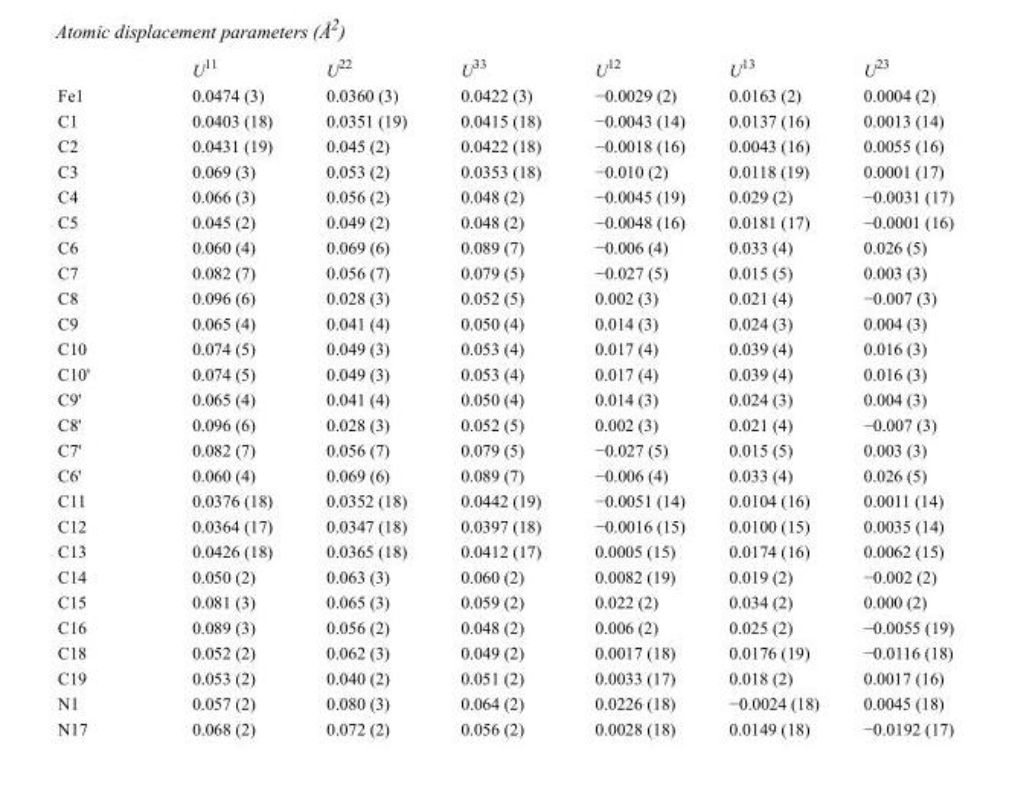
<table><thead><tr><td></td><td>U<sup>11</sup></td><td>U<sup>22</sup></td><td>U<sup>33</sup></td><td>U<sup>12</sup></td><td>U<sup>13</sup></td><td>U<sup>23</sup></td></tr></thead><tbody><tr><td>Fe1</td><td>0.0474 (3)</td><td>0.0360 (3)</td><td>0.0422 (3)</td><td>−0.0029 (2)</td><td>0.0163 (2)</td><td>0.0004 (2)</td></tr><tr><td>C1</td><td>0.0403 (18)</td><td>0.0351 (19)</td><td>0.0415 (18)</td><td>−0.0043 (14)</td><td>0.0137 (16)</td><td>0.0013 (14)</td></tr><tr><td>C2</td><td>0.0431 (19)</td><td>0.045 (2)</td><td>0.0422 (18)</td><td>−0.0018 (16)</td><td>0.0043 (16)</td><td>0.0055 (16)</td></tr><tr><td>C3</td><td>0.069 (3)</td><td>0.053 (2)</td><td>0.0353 (18)</td><td>−0.010 (2)</td><td>0.0118 (19)</td><td>0.0001 (17)</td></tr><tr><td>C4</td><td>0.066 (3)</td><td>0.056 (2)</td><td>0.048 (2)</td><td>−0.0045 (19)</td><td>0.029 (2)</td><td>−0.0031 (17)</td></tr><tr><td>C5</td><td>0.045 (2)</td><td>0.049 (2)</td><td>0.048 (2)</td><td>−0.0048 (16)</td><td>0.0181 (17)</td><td>−0.0001 (16)</td></tr><tr><td>C6</td><td>0.060 (4)</td><td>0.069 (6)</td><td>0.089 (7)</td><td>−0.006 (4)</td><td>0.033 (4)</td><td>0.026 (5)</td></tr><tr><td>C7</td><td>0.082 (7)</td><td>0.056 (7)</td><td>0.079 (5)</td><td>−0.027 (5)</td><td>0.015 (5)</td><td>0.003 (3)</td></tr><tr><td>C8</td><td>0.096 (6)</td><td>0.028 (3)</td><td>0.052 (5)</td><td>0.002 (3)</td><td>0.021 (4)</td><td>−0.007 (3)</td></tr><tr><td>C9</td><td>0.065 (4)</td><td>0.041 (4)</td><td>0.050 (4)</td><td>0.014 (3)</td><td>0.024 (3)</td><td>0.004 (3)</td></tr><tr><td>C10</td><td>0.074 (5)</td><td>0.049 (3)</td><td>0.053 (4)</td><td>0.017 (4)</td><td>0.039 (4)</td><td>0.016 (3)</td></tr><tr><td>C10&#x27;</td><td>0.074 (5)</td><td>0.049 (3)</td><td>0.053 (4)</td><td>0.017 (4)</td><td>0.039 (4)</td><td>0.016 (3)</td></tr><tr><td>C9&#x27;</td><td>0.065 (4)</td><td>0.041 (4)</td><td>0.050 (4)</td><td>0.014 (3)</td><td>0.024 (3)</td><td>0.004 (3)</td></tr><tr><td>C8&#x27;</td><td>0.096 (6)</td><td>0.028 (3)</td><td>0.052 (5)</td><td>0.002 (3)</td><td>0.021 (4)</td><td>−0.007 (3)</td></tr><tr><td>C7&#x27;</td><td>0.082 (7)</td><td>0.056 (7)</td><td>0.079 (5)</td><td>−0.027 (5)</td><td>0.015 (5)</td><td>0.003 (3)</td></tr><tr><td>C6&#x27;</td><td>0.060 (4)</td><td>0.069 (6)</td><td>0.089 (7)</td><td>−0.006 (4)</td><td>0.033 (4)</td><td>0.026 (5)</td></tr><tr><td>C11</td><td>0.0376 (18)</td><td>0.0352 (18)</td><td>0.0442 (19)</td><td>−0.0051 (14)</td><td>0.0104 (16)</td><td>0.0011 (14)</td></tr><tr><td>C12</td><td>0.0364 (17)</td><td>0.0347 (18)</td><td>0.0397 (18)</td><td>−0.0016 (15)</td><td>0.0100 (15)</td><td>0.0035 (14)</td></tr><tr><td>C13</td><td>0.0426 (18)</td><td>0.0365 (18)</td><td>0.0412 (17)</td><td>0.0005 (15)</td><td>0.0174 (16)</td><td>0.0062 (15)</td></tr><tr><td>C14</td><td>0.050 (2)</td><td>0.063 (3)</td><td>0.060 (2)</td><td>0.0082 (19)</td><td>0.019 (2)</td><td>−0.002 (2)</td></tr><tr><td>C15</td><td>0.081 (3)</td><td>0.065 (3)</td><td>0.059 (2)</td><td>0.022 (2)</td><td>0.034 (2)</td><td>0.000 (2)</td></tr><tr><td>C16</td><td>0.089 (3)</td><td>0.056 (2)</td><td>0.048 (2)</td><td>0.006 (2)</td><td>0.025 (2)</td><td>−0.0055 (19)</td></tr><tr><td>C18</td><td>0.052 (2)</td><td>0.062 (3)</td><td>0.049 (2)</td><td>0.0017 (18)</td><td>0.0176 (19)</td><td>−0.0116 (18)</td></tr><tr><td>C19</td><td>0.053 (2)</td><td>0.040 (2)</td><td>0.051 (2)</td><td>0.0033 (17)</td><td>0.018 (2)</td><td>0.0017 (16)</td></tr><tr><td>N1</td><td>0.057 (2)</td><td>0.080 (3)</td><td>0.064 (2)</td><td>0.0226 (18)</td><td>−0.0024 (18)</td><td>0.0045 (18)</td></tr><tr><td>N17</td><td>0.068 (2)</td><td>0.072 (2)</td><td>0.056 (2)</td><td>0.0028 (18)</td><td>0.0149 (18)</td><td>−0.0192 (17)</td></tr></tbody></table>